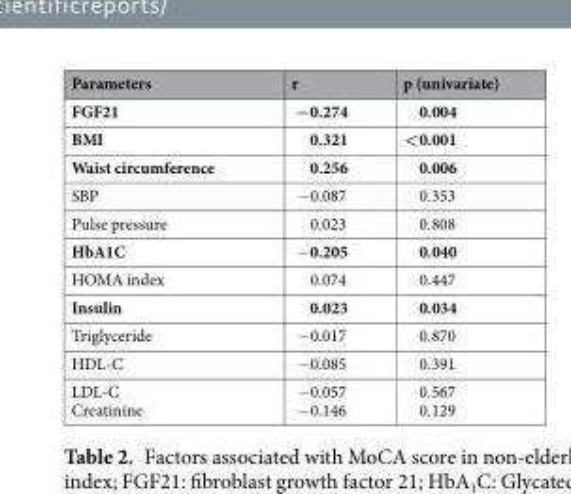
<table><thead><tr><td>Parameters</td><td>r</td><td>p (univariate)</td></tr></thead><tbody><tr><td>FGF21</td><td>−0.274</td><td>0.004</td></tr><tr><td>BMI</td><td>0.321</td><td>&lt;0.001</td></tr><tr><td>Waist circumference</td><td>0.256</td><td>0.006</td></tr><tr><td>SBP</td><td>−0.087</td><td>0.353</td></tr><tr><td>Pulse pressure</td><td>0.023</td><td>0.808</td></tr><tr><td>HbA1C</td><td>−0.205</td><td>0.040</td></tr><tr><td>HOMA index</td><td>0.074</td><td>0.447</td></tr><tr><td>Insulin</td><td>0.023</td><td>0.034</td></tr><tr><td>Triglyceride</td><td>−0.017</td><td>0.870</td></tr><tr><td>HDL-C</td><td>−0.085</td><td>0.391</td></tr><tr><td>LDL-C Creatinine</td><td>−0.057 −0.146</td><td>0.567 0.129</td></tr></tbody></table>